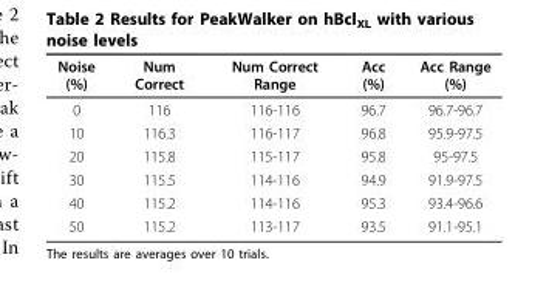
<table><thead><tr><td>Noise (%)</td><td>Num Correct</td><td>Num Correct Range</td><td>Acc (%)</td><td>Acc Range (%)</td></tr></thead><tbody><tr><td>0</td><td>116</td><td>116-116</td><td>96.7</td><td>96.7-96.7</td></tr><tr><td>10</td><td>116.3</td><td>116-117</td><td>96.8</td><td>95.9-97.5</td></tr><tr><td>20</td><td>115.8</td><td>115-117</td><td>95.8</td><td>95-97.5</td></tr><tr><td>30</td><td>115.5</td><td>114-116</td><td>94.9</td><td>91.9-97.5</td></tr><tr><td>40</td><td>115.2</td><td>114-116</td><td>95.3</td><td>93.4-96.6</td></tr><tr><td>50</td><td>115.2</td><td>113-117</td><td>93.5</td><td>91.1-95.1</td></tr></tbody></table>